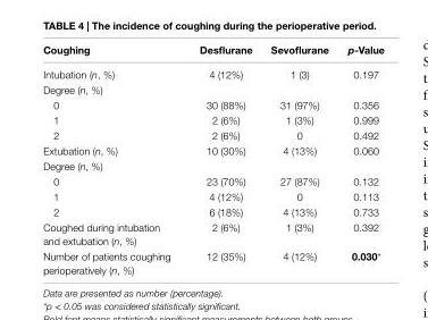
<table><thead><tr><td>coughing</td><td>Desflurane</td><td>sevoflurane</td><td>p-Value</td></tr></thead><tbody><tr><td>Intubation (n, %)</td><td>4 (12%)</td><td>1 (3)</td><td>0.197</td></tr><tr><td colspan="4">Degree (n, %)</td></tr><tr><td>0</td><td>30 (88%)</td><td>31 (97%)</td><td>0.356</td></tr><tr><td>1</td><td>2 (6%)</td><td>1 (3%)</td><td>0.999</td></tr><tr><td>2</td><td>2 (6%)</td><td>0</td><td>0.492</td></tr><tr><td>Extubation (n, %)</td><td>10 (30%)</td><td>4 (13%)</td><td>0.060</td></tr><tr><td colspan="4">Degree (n, %)</td></tr><tr><td>0</td><td>23 (70%)</td><td>27 (87%)</td><td>0.132</td></tr><tr><td>1</td><td>4 (12%)</td><td>0</td><td>0.113</td></tr><tr><td>2</td><td>6 (18%)</td><td>4 (13%)</td><td>0.733</td></tr><tr><td>Coughed during intubation and extubation (n, %)</td><td>2 (6%)</td><td>1 (3%)</td><td>0.392</td></tr><tr><td>Number of patients coughing perioperatively (n, %)</td><td>12 (35%)</td><td>4 (12%)</td><td>0.030*</td></tr></tbody></table>